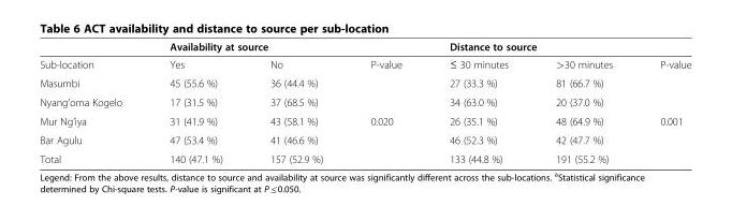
<table><thead><tr><td rowspan="2">Sub-location</td><td colspan="3">Availability at source</td><td colspan="3">Distance to source</td></tr><tr><td>Yes</td><td>No</td><td>P-value</td><td>≤ 30 minutes</td><td>&gt;30 minutes</td><td>P-value</td></tr></thead><tbody><tr><td>Masumbi</td><td>45 (55.6 %)</td><td>36 (44.4 %)</td><td></td><td>27 (33.3 %)</td><td>81 (66.7 %)</td><td></td></tr><tr><td>Nyang’oma Kogelo</td><td>17 (31.5 %)</td><td>37 (68.5 %)</td><td></td><td>34 (63.0 %)</td><td>20 (37.0 %)</td><td></td></tr><tr><td>Mur Ng’iya</td><td>31 (41.9 %)</td><td>43 (58.1 %)</td><td>0.020</td><td>26 (35.1 %)</td><td>48 (64.9 %)</td><td>0.001</td></tr><tr><td>Bar Agulu</td><td>47 (53.4 %)</td><td>41 (46.6 %)</td><td></td><td>46 (52.3 %)</td><td>42 (47.7 %)</td><td></td></tr><tr><td>Total</td><td>140 (47.1 %)</td><td>157 (52.9 %)</td><td></td><td>133 (44.8 %)</td><td>191 (55.2 %)</td><td></td></tr></tbody></table>